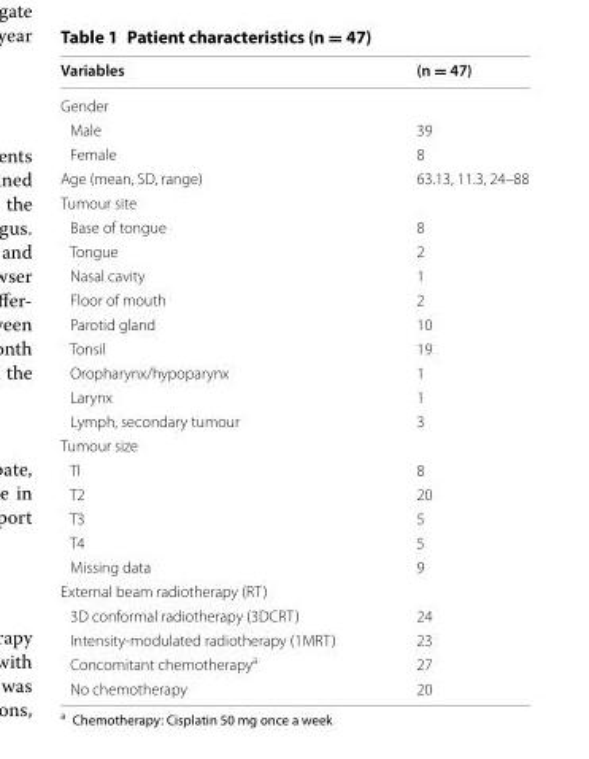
<table><thead><tr><td>Variables</td><td>(n = 47)</td></tr></thead><tbody><tr><td colspan="2">Gender</td></tr><tr><td>Male</td><td>39</td></tr><tr><td>Female</td><td>8</td></tr><tr><td>Age (mean, SD, range)</td><td>63.13, 11.3, 24–88</td></tr><tr><td colspan="2">Tumour site</td></tr><tr><td>Base of tongue</td><td>8</td></tr><tr><td>Tongue</td><td>2</td></tr><tr><td>Nasal cavity</td><td>1</td></tr><tr><td>Floor of mouth</td><td>2</td></tr><tr><td>Parotid gland</td><td>10</td></tr><tr><td>Tonsil</td><td>19</td></tr><tr><td>Oropharynx/hypoparynx</td><td>1</td></tr><tr><td>Larynx</td><td>1</td></tr><tr><td>Lymph, secondary tumour</td><td>3</td></tr><tr><td colspan="2">Tumour size</td></tr><tr><td>Tl</td><td>8</td></tr><tr><td>T2</td><td>20</td></tr><tr><td>T3</td><td>5</td></tr><tr><td>T4</td><td>5</td></tr><tr><td>Missing data</td><td>9</td></tr><tr><td colspan="2">External beam radiotherapy (RT)</td></tr><tr><td>3D conformal radiotherapy (3DCRT)</td><td>24</td></tr><tr><td>Intensity-modulated radiotherapy (1MRT)</td><td>23</td></tr><tr><td>Concomitant chemotherapy<sup>a</sup></td><td>27</td></tr><tr><td>No chemotherapy</td><td>20</td></tr></tbody></table>